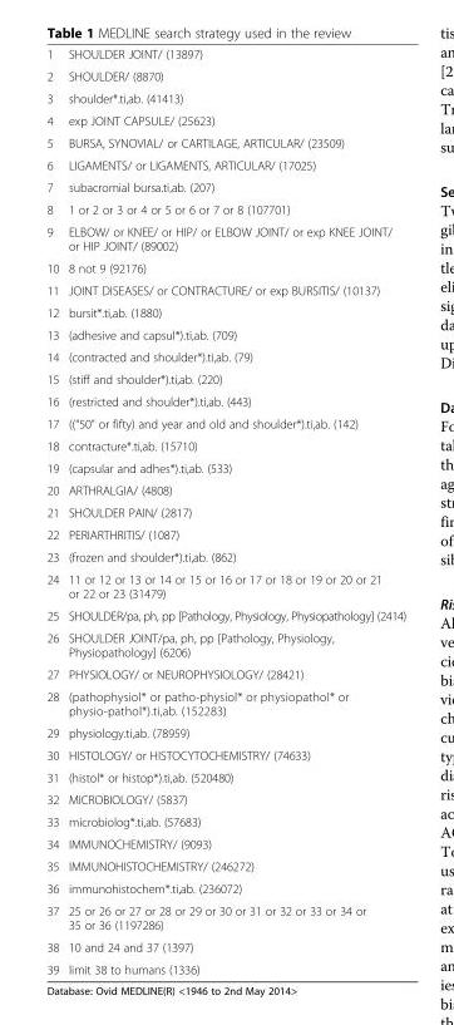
<table><tbody><tr><td>1</td><td>SHOULDER JOINT/ (13897)</td></tr><tr><td>2</td><td>SHOULDER/ (8870)</td></tr><tr><td>3</td><td>shoulder*.ti,ab. (41413)</td></tr><tr><td>4</td><td>exp JOINT CAPSULE/ (25623)</td></tr><tr><td>5</td><td>BURSA, SYNOVIAL/ or CARTILAGE, ARTICULAR/ (23509)</td></tr><tr><td>6</td><td>LIGAMENTS/ or LIGAMENTS, ARTICULAR/ (17025)</td></tr><tr><td>7</td><td>subacromial bursa.ti,ab. (207)</td></tr><tr><td>8</td><td>1 or 2 or 3 or 4 or 5 or 6 or 7 or 8 (107701)</td></tr><tr><td>9</td><td>ELBOW/ or KNEE/ or HIP/ or ELBOW JOINT/ or exp KNEE JOINT/ or HIP JOINT/ (89002)</td></tr><tr><td>10</td><td>8 not 9 (92176)</td></tr><tr><td>11</td><td>JOINT DISEASES/ or CONTRACTURE/ or exp BURSITIS/ (10137)</td></tr><tr><td>12</td><td>bursit*.ti,ab. (1880)</td></tr><tr><td>13</td><td>(adhesive and capsul*).ti,ab. (709)</td></tr><tr><td>14</td><td>(contracted and shoulder*).ti,ab. (79)</td></tr><tr><td>15</td><td>(stiff and shoulder*).ti,ab. (220)</td></tr><tr><td>16</td><td>(restricted and shoulder*).ti,ab. (443)</td></tr><tr><td>17</td><td>((“50” or fifty) and year and old and shoulder*).ti,ab. (142)</td></tr><tr><td>18</td><td>contracture*.ti,ab. (15710)</td></tr><tr><td>19</td><td>(capsular and adhes*).ti,ab. (533)</td></tr><tr><td>20</td><td>ARTHRALGIA/ (4808)</td></tr><tr><td>21</td><td>SHOULDER PAIN/ (2817)</td></tr><tr><td>22</td><td>PERIARTHRITIS/ (1087)</td></tr><tr><td>23</td><td>(frozen and shoulder*).ti,ab. (862)</td></tr><tr><td>24</td><td>11 or 12 or 13 or 14 or 15 or 16 or 17 or 18 or 19 or 20 or 21 or 22 or 23 (31479)</td></tr><tr><td>25</td><td>SHOULDER/pa, ph, pp [Pathology, Physiology, Physiopathology] (2414)</td></tr><tr><td>26</td><td>SHOULDER JOINT/pa, ph, pp [Pathology, Physiology, Physiopathology] (6206)</td></tr><tr><td>27</td><td>PHYSIOLOGY/ or NEUROPHYSIOLOGY/ (28421)</td></tr><tr><td>28</td><td>(pathophysiol* or patho-physiol* or physiopathol* or physio-pathol*).ti,ab. (152283)</td></tr><tr><td>29</td><td>physiology.ti,ab. (78959)</td></tr><tr><td>30</td><td>HISTOLOGY/ or HISTOCYTOCHEMISTRY/ (74633)</td></tr><tr><td>31</td><td>(histol* or histop*).ti,ab. (520480)</td></tr><tr><td>32</td><td>MICROBIOLOGY/ (5837)</td></tr><tr><td>33</td><td>microbiolog*.ti,ab. (57683)</td></tr><tr><td>34</td><td>IMMUNOCHEMISTRY/ (9093)</td></tr><tr><td>35</td><td>IMMUNOHISTOCHEMISTRY/ (246272)</td></tr><tr><td>36</td><td>immunohistochem*.ti,ab. (236072)</td></tr><tr><td>37</td><td>25 or 26 or 27 or 28 or 29 or 30 or 31 or 32 or 33 or 34 or 35 or 36 (1197286)</td></tr><tr><td>38</td><td>10 and 24 and 37 (1397)</td></tr><tr><td>39</td><td>limit 38 to humans (1336)</td></tr></tbody></table>